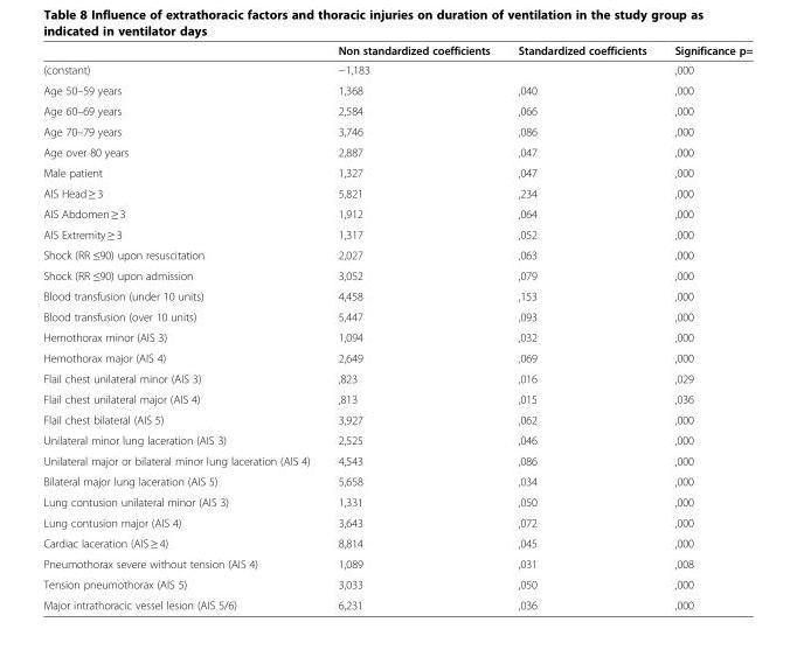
<table><thead><tr><td></td><td>Non standardized coefficients</td><td>Standardized coefficients</td><td>Significance p=</td></tr></thead><tbody><tr><td>(constant)</td><td>−1,183</td><td></td><td>,000</td></tr><tr><td>Age 50–59 years</td><td>1,368</td><td>,040</td><td>,000</td></tr><tr><td>Age 60–69 years</td><td>2,584</td><td>,066</td><td>,000</td></tr><tr><td>Age 70–79 years</td><td>3,746</td><td>,086</td><td>,000</td></tr><tr><td>Age over 80 years</td><td>2,887</td><td>,047</td><td>,000</td></tr><tr><td>Male patient</td><td>1,327</td><td>,047</td><td>,000</td></tr><tr><td>AIS Head ≥ 3</td><td>5,821</td><td>,234</td><td>,000</td></tr><tr><td>AIS Abdomen ≥ 3</td><td>1,912</td><td>,064</td><td>,000</td></tr><tr><td>AIS Extremity ≥ 3</td><td>1,317</td><td>,052</td><td>,000</td></tr><tr><td>Shock (RR ≤90) upon resuscitation</td><td>2,027</td><td>,063</td><td>,000</td></tr><tr><td>Shock (RR ≤90) upon admission</td><td>3,052</td><td>,079</td><td>,000</td></tr><tr><td>Blood transfusion (under 10 units)</td><td>4,458</td><td>,153</td><td>,000</td></tr><tr><td>Blood transfusion (over 10 units)</td><td>5,447</td><td>,093</td><td>,000</td></tr><tr><td>Hemothorax minor (AIS 3)</td><td>1,094</td><td>,032</td><td>,000</td></tr><tr><td>Hemothorax major (AIS 4)</td><td>2,649</td><td>,069</td><td>,000</td></tr><tr><td>Flail chest unilateral minor (AIS 3)</td><td>,823</td><td>,016</td><td>,029</td></tr><tr><td>Flail chest unilateral major (AIS 4)</td><td>,813</td><td>,015</td><td>,036</td></tr><tr><td>Flail chest bilateral (AIS 5)</td><td>3,927</td><td>,062</td><td>,000</td></tr><tr><td>Unilateral minor lung laceration (AIS 3)</td><td>2,525</td><td>,046</td><td>,000</td></tr><tr><td>Unilateral major or bilateral minor lung laceration (AIS 4)</td><td>4,543</td><td>,086</td><td>,000</td></tr><tr><td>Bilateral major lung laceration (AIS 5)</td><td>5,658</td><td>,034</td><td>,000</td></tr><tr><td>Lung contusion unilateral minor (AIS 3)</td><td>1,331</td><td>,050</td><td>,000</td></tr><tr><td>Lung contusion major (AIS 4)</td><td>3,643</td><td>,072</td><td>,000</td></tr><tr><td>Cardiac laceration (AIS ≥ 4)</td><td>8,814</td><td>,045</td><td>,000</td></tr><tr><td>Pneumothorax severe without tension (AIS 4)</td><td>1,089</td><td>,031</td><td>,008</td></tr><tr><td>Tension pneumothorax (AIS 5)</td><td>3,033</td><td>,050</td><td>,000</td></tr><tr><td>Major intrathoracic vessel lesion (AIS 5/6)</td><td>6,231</td><td>,036</td><td>,000</td></tr></tbody></table>